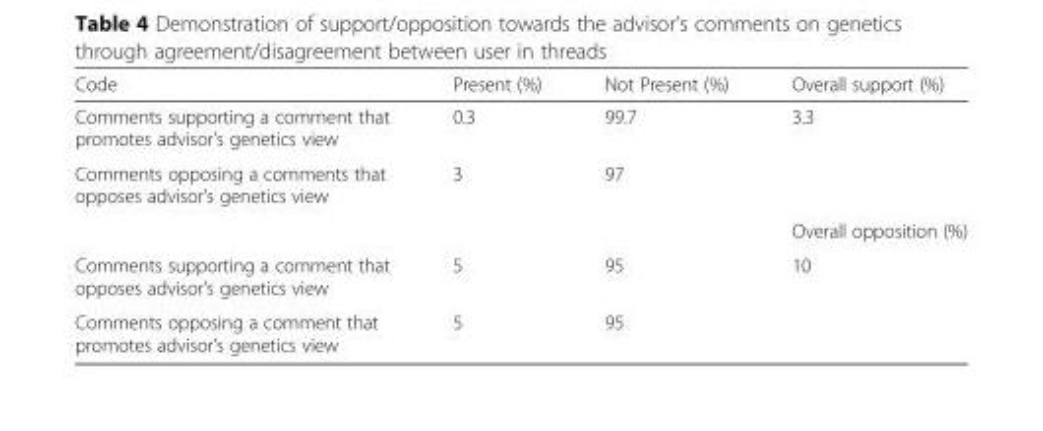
<table><thead><tr><td>Code</td><td>Present (%)</td><td>Not Present (%)</td><td>Overall support (%)</td></tr></thead><tbody><tr><td>Comments supporting a comment that promotes advisor’s genetics view</td><td>0.3</td><td>99.7</td><td rowspan="2">3.3</td></tr><tr><td>Comments opposing a comments that opposes advisor’s genetics view</td><td>3</td><td>97</td></tr><tr><td colspan="3"></td><td>Overall opposition (%)</td></tr><tr><td>Comments supporting a comment that opposes advisor’s genetics view</td><td>5</td><td>95</td><td rowspan="2">10</td></tr><tr><td>Comments opposing a comment that promotes advisor’s genetics view</td><td>5</td><td>95</td></tr></tbody></table>